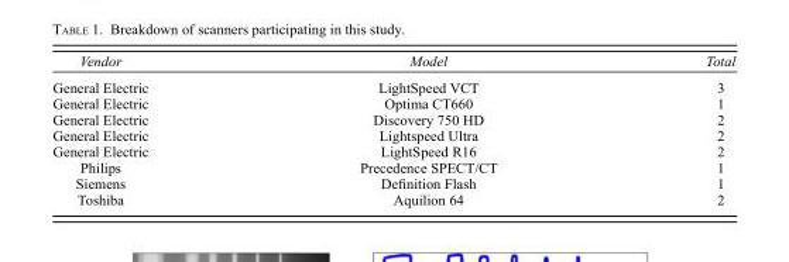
<table><thead><tr><td>Vendor</td><td>Model</td><td>Total</td></tr></thead><tbody><tr><td>General Electric</td><td>LightSpeed VCT</td><td>3</td></tr><tr><td>General Electric</td><td>Optima CT660</td><td>1</td></tr><tr><td>General Electric</td><td>Discovery 750 HD</td><td>2</td></tr><tr><td>General Electric</td><td>Lightspeed Ultra</td><td>2</td></tr><tr><td>General Electric</td><td>LightSpeed R16</td><td>2</td></tr><tr><td>Philips</td><td>Precedence SPECT/CT</td><td>1</td></tr><tr><td>Siemens</td><td>Definition Flash</td><td>1</td></tr><tr><td>Toshiba</td><td>Aquilion 64</td><td>2</td></tr></tbody></table>